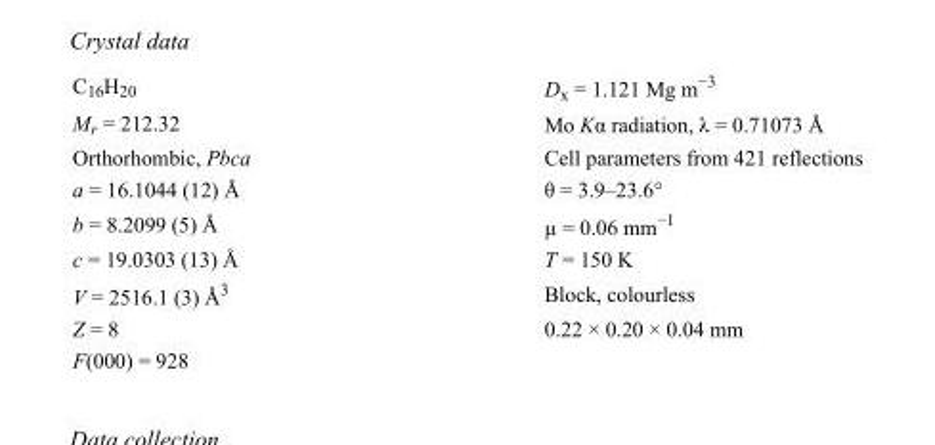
<table><tbody><tr><td>C<sub>16</sub>H<sub>20</sub></td><td>D<sub>x</sub> = 1.121 Mg m<sup>−3</sup></td></tr><tr><td>M<sub>r</sub> = 212.32</td><td>Mo Kα radiation, λ = 0.71073 Å</td></tr><tr><td>Orthorhombic, Pbca</td><td>Cell parameters from 421 reflections</td></tr><tr><td>a = 16.1044 (12) Å</td><td>θ = 3.9–23.6°</td></tr><tr><td>b = 8.2099 (5) Å</td><td>µ = 0.06 mm<sup>−1</sup></td></tr><tr><td>c = 19.0303 (13) Å</td><td>T = 150 K</td></tr><tr><td>V = 2516.1 (3) Å<sup>3</sup></td><td>Block, colourless</td></tr><tr><td>Z = 8</td><td>0.22 × 0.20 × 0.04 mm</td></tr><tr><td>F(000) = 928</td><td></td></tr></tbody></table>